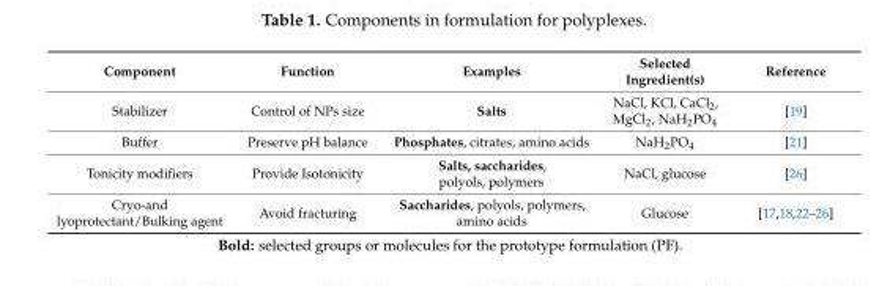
<table><thead><tr><td>Component</td><td>Function</td><td>Examples</td><td>Selected Ingredient(s)</td><td>Reference</td></tr></thead><tbody><tr><td>Stabilizer</td><td>Control of NPs size</td><td>Salts</td><td>NaCl, KCl, CaCl<sub>2</sub>, MgCl<sub>2</sub>, NaH<sub>2</sub>PO<sub>4</sub></td><td>[19]</td></tr><tr><td>Buffer</td><td>Preserve pH balance</td><td>Phosphates, citrates, amino acids</td><td>NaH<sub>2</sub>PO<sub>4</sub></td><td>[21]</td></tr><tr><td>Tonicity modifiers</td><td>Provide Isotonicity</td><td>Salts, saccharides, polyols, polymers</td><td>NaCl, glucose</td><td>[26]</td></tr><tr><td>Cryo-and lyoprotectant/Bulking agent</td><td>Avoid fracturing</td><td>Saccharides, polyols, polymers, amino acids</td><td>Glucose</td><td>[17,18,22–26]</td></tr></tbody></table>